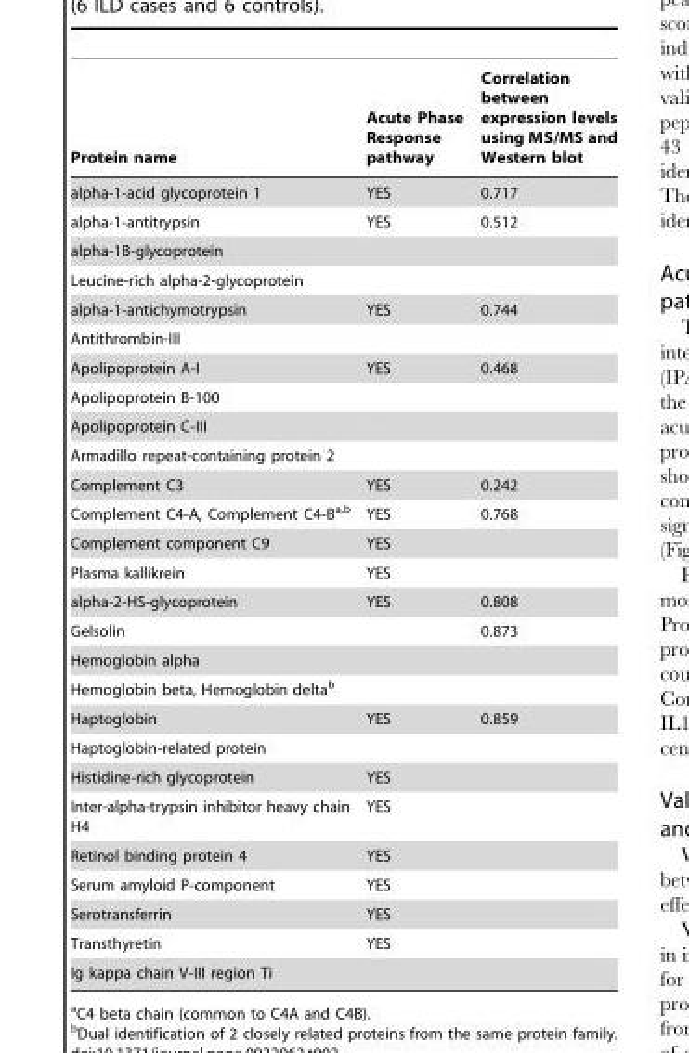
<table><thead><tr><td>Protein name</td><td>Acute Phase Response pathway</td><td>Correlation between expression levels using MS/MS and Western blot</td></tr></thead><tbody><tr><td>alpha-1-acid glycoprotein 1</td><td>YES</td><td>0.717</td></tr><tr><td>alpha-1-antitrypsin</td><td>YES</td><td>0.512</td></tr><tr><td colspan="3">alpha-1B-glycoprotein</td></tr><tr><td colspan="3">Leucine-rich alpha-2-glycoprotein</td></tr><tr><td>alpha-1-antichymotrypsin</td><td>YES</td><td>0.744</td></tr><tr><td colspan="3">Antithrombin-III</td></tr><tr><td>Apolipoprotein A-I</td><td>YES</td><td>0.468</td></tr><tr><td colspan="3">Apolipoprotein B-100</td></tr><tr><td colspan="3">Apolipoprotein C-III</td></tr><tr><td colspan="3">Armadillo repeat-containing protein 2</td></tr><tr><td>Complement C3</td><td>YES</td><td>0.242</td></tr><tr><td>Complement C4-A, Complement C4-Ba,b</td><td>YES</td><td>0.768</td></tr><tr><td>Complement component C9</td><td>YES</td><td></td></tr><tr><td>Plasma kallikrein</td><td>YES</td><td></td></tr><tr><td>alpha-2-HS-glycoprotein</td><td>YES</td><td>0.808</td></tr><tr><td>Gelsolin</td><td></td><td>0.873</td></tr><tr><td colspan="3">Hemoglobin alpha</td></tr><tr><td colspan="3">Hemoglobin beta, Hemoglobin delta<sup>b</sup></td></tr><tr><td>Haptoglobin</td><td>YES</td><td>0.859</td></tr><tr><td colspan="3">Haptoglobin-related protein</td></tr><tr><td>Histidine-rich glycoprotein</td><td>YES</td><td></td></tr><tr><td>Inter-alpha-trypsin inhibitor heavy chain H4</td><td>YES</td><td></td></tr><tr><td>Retinol binding protein 4</td><td>YES</td><td></td></tr><tr><td>Serum amyloid P-component</td><td>YES</td><td></td></tr><tr><td>Serotransferrin</td><td>YES</td><td></td></tr><tr><td>Transthyretin</td><td>YES</td><td></td></tr><tr><td>Ig kappa chain V-III region Ti</td><td></td><td></td></tr></tbody></table>